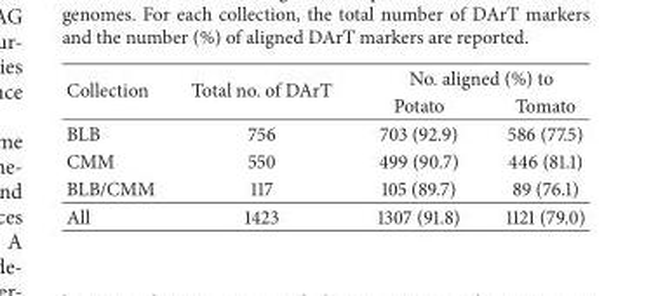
<table><thead><tr><td rowspan="2">Collection</td><td rowspan="2">Total no. of DArT</td><td colspan="2">No. aligned (%) to</td></tr><tr><td>Potato</td><td>Tomato</td></tr></thead><tbody><tr><td>BLB</td><td>756</td><td>703 (92.9)</td><td>586 (77.5)</td></tr><tr><td>CMM</td><td>550</td><td>499 (90.7)</td><td>446 (81.1)</td></tr><tr><td>BLB/CMM</td><td>117</td><td>105 (89.7)</td><td>89 (76.1)</td></tr><tr><td>All</td><td>1423</td><td>1307 (91.8)</td><td>1121 (79.0)</td></tr></tbody></table>